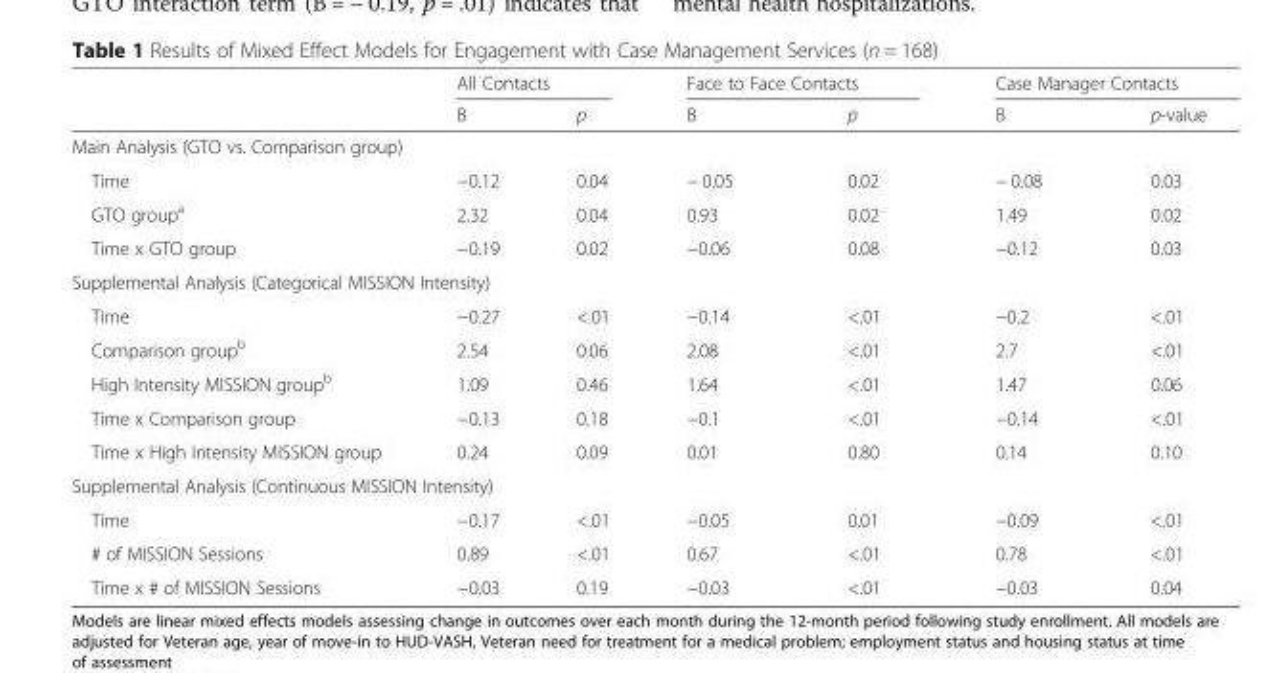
<table><thead><tr><td rowspan="2"></td><td colspan="2">All Contacts</td><td colspan="2">Face to Face Contacts</td><td colspan="2">Case Manager Contacts</td></tr><tr><td>B</td><td>p</td><td>B</td><td>p</td><td>B</td><td>p-value</td></tr></thead><tbody><tr><td colspan="7">Main Analysis (GTO vs. Comparison group)</td></tr><tr><td>Time</td><td>−0.12</td><td>0.04</td><td>− 0.05</td><td>0.02</td><td>− 0.08</td><td>0.03</td></tr><tr><td>GTO group<sup>a</sup></td><td>2.32</td><td>0.04</td><td>0.93</td><td>0.02</td><td>1.49</td><td>0.02</td></tr><tr><td>Time x GTO group</td><td>−0.19</td><td>0.02</td><td>−0.06</td><td>0.08</td><td>−0.12</td><td>0.03</td></tr><tr><td colspan="7">Supplemental Analysis (Categorical MISSION Intensity)</td></tr><tr><td>Time</td><td>−0.27</td><td>&lt;.01</td><td>−0.14</td><td>&lt;.01</td><td>−0.2</td><td>&lt;.01</td></tr><tr><td>Comparison group<sup>b</sup></td><td>2.54</td><td>0.06</td><td>2.08</td><td>&lt;.01</td><td>2.7</td><td>&lt;.01</td></tr><tr><td>High Intensity MISSION group<sup>b</sup></td><td>1.09</td><td>0.46</td><td>1.64</td><td>&lt;.01</td><td>1.47</td><td>0.06</td></tr><tr><td>Time x Comparison group</td><td>−0.13</td><td>0.18</td><td>−0.1</td><td>&lt;.01</td><td>−0.14</td><td>&lt;.01</td></tr><tr><td>Time x High Intensity MISSION group</td><td>0.24</td><td>0.09</td><td>0.01</td><td>0.80</td><td>0.14</td><td>0.10</td></tr><tr><td colspan="7">Supplemental Analysis (Continuous MISSION Intensity)</td></tr><tr><td>Time</td><td>−0.17</td><td>&lt;.01</td><td>−0.05</td><td>0.01</td><td>−0.09</td><td>&lt;.01</td></tr><tr><td># of MISSION Sessions</td><td>0.89</td><td>&lt;.01</td><td>0.67</td><td>&lt;.01</td><td>0.78</td><td>&lt;.01</td></tr><tr><td>Time x # of MISSION Sessions</td><td>−0.03</td><td>0.19</td><td>−0.03</td><td>&lt;.01</td><td>−0.03</td><td>0.04</td></tr></tbody></table>